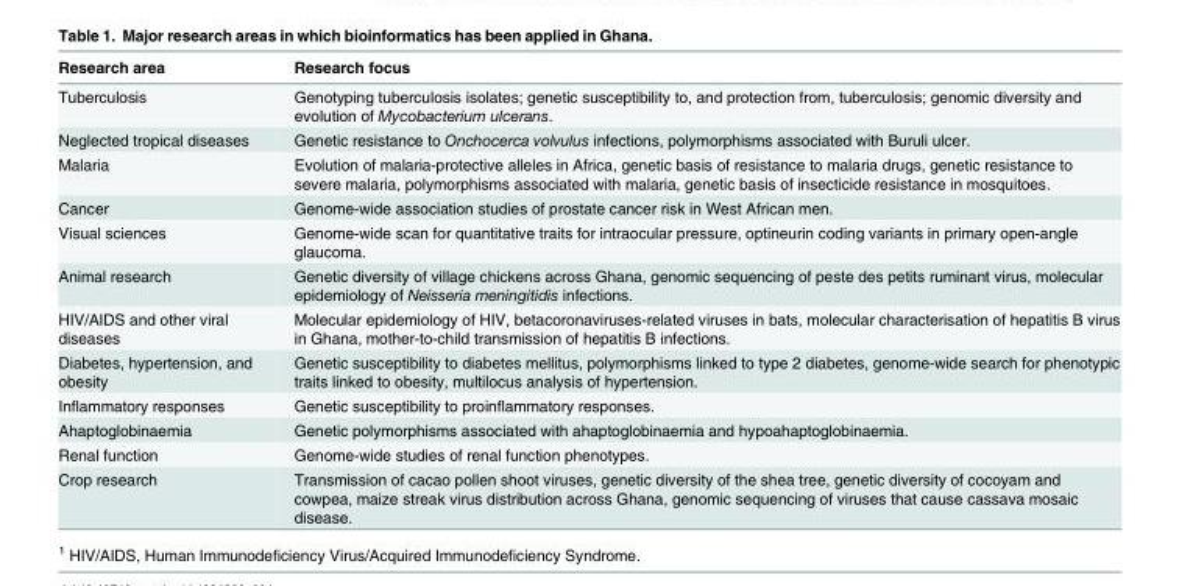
<table><thead><tr><td>Research area</td><td>Research focus</td></tr></thead><tbody><tr><td>Tuberculosis</td><td>Genotyping tuberculosis isolates; genetic susceptibility to, and protection from, tuberculosis; genomic diversity and evolution of Mycobacterium ulcerans.</td></tr><tr><td>Neglected tropical diseases</td><td>Genetic resistance to Onchocerca volvulus infections, polymorphisms associated with Buruli ulcer.</td></tr><tr><td>Malaria</td><td>Evolution of malaria-protective alleles in Africa, genetic basis of resistance to malaria drugs, genetic resistance to severe malaria, polymorphisms associated with malaria, genetic basis of insecticide resistance in mosquitoes.</td></tr><tr><td>Cancer</td><td>Genome-wide association studies of prostate cancer risk in West African men.</td></tr><tr><td>Visual sciences</td><td>Genome-wide scan for quantitative traits for intraocular pressure, optineurin coding variants in primary open-angle glaucoma.</td></tr><tr><td>Animal research</td><td>Genetic diversity of village chickens across Ghana, genomic sequencing of peste des petits ruminant virus, molecular epidemiology of Neisseria meningitidis infections.</td></tr><tr><td>HIV/AIDS and other viral diseases</td><td>Molecular epidemiology of HIV, betacoronaviruses-related viruses in bats, molecular characterisation of hepatitis B virus in Ghana, mother-to-child transmission of hepatitis B infections.</td></tr><tr><td>Diabetes, hypertension, and obesity</td><td>Genetic susceptibility to diabetes mellitus, polymorphisms linked to type 2 diabetes, genome-wide search for phenotypic traits linked to obesity, multilocus analysis of hypertension.</td></tr><tr><td>Inflammatory responses</td><td>Genetic susceptibility to proinflammatory responses.</td></tr><tr><td>Ahaptoglobinaemia</td><td>Genetic polymorphisms associated with ahaptoglobinaemia and hypoahaptoglobinaemia.</td></tr><tr><td>Renal function</td><td>Genome-wide studies of renal function phenotypes.</td></tr><tr><td>Crop research</td><td>Transmission of cacao pollen shoot viruses, genetic diversity of the shea tree, genetic diversity of cocoyam and cowpea, maize streak virus distribution across Ghana, genomic sequencing of viruses that cause cassava mosaic disease.</td></tr></tbody></table>